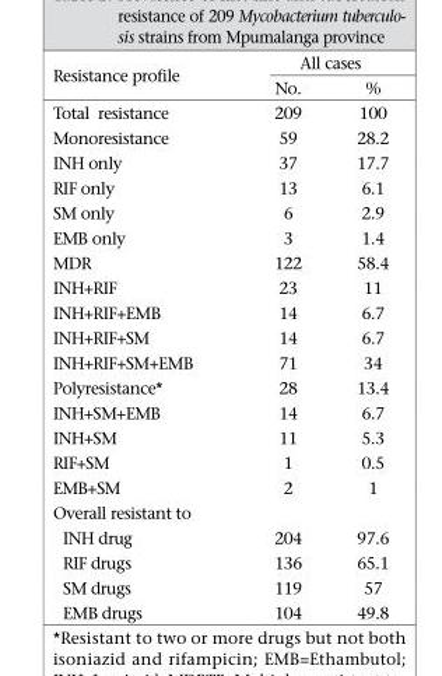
<table><thead><tr><td rowspan="2">Resistance profile</td><td colspan="2">All cases</td></tr><tr><td>No.</td><td>%</td></tr></thead><tbody><tr><td>Total resistance</td><td>209</td><td>100</td></tr><tr><td>Monoresistance</td><td>59</td><td>28.2</td></tr><tr><td>INH only</td><td>37</td><td>17.7</td></tr><tr><td>RIF only</td><td>13</td><td>6.1</td></tr><tr><td>SM only</td><td>6</td><td>2.9</td></tr><tr><td>EMB only</td><td>3</td><td>1.4</td></tr><tr><td>MDR</td><td>122</td><td>58.4</td></tr><tr><td>INH+RIF</td><td>23</td><td>11</td></tr><tr><td>INH+RIF+EMB</td><td>14</td><td>6.7</td></tr><tr><td>INH+RIF+SM</td><td>14</td><td>6.7</td></tr><tr><td>INH+RIF+SM+EMB</td><td>71</td><td>34</td></tr><tr><td>Polyresistance*</td><td>28</td><td>13.4</td></tr><tr><td>INH+SM+EMB</td><td>14</td><td>6.7</td></tr><tr><td>INH+SM</td><td>11</td><td>5.3</td></tr><tr><td>RIF+SM</td><td>1</td><td>0.5</td></tr><tr><td>EMB+SM</td><td>2</td><td>1</td></tr><tr><td colspan="3">Overall resistant to</td></tr><tr><td>INH drug</td><td>204</td><td>97.6</td></tr><tr><td>RIF drugs</td><td>136</td><td>65.1</td></tr><tr><td>SM drugs</td><td>119</td><td>57</td></tr><tr><td>EMB drugs</td><td>104</td><td>49.8</td></tr></tbody></table>